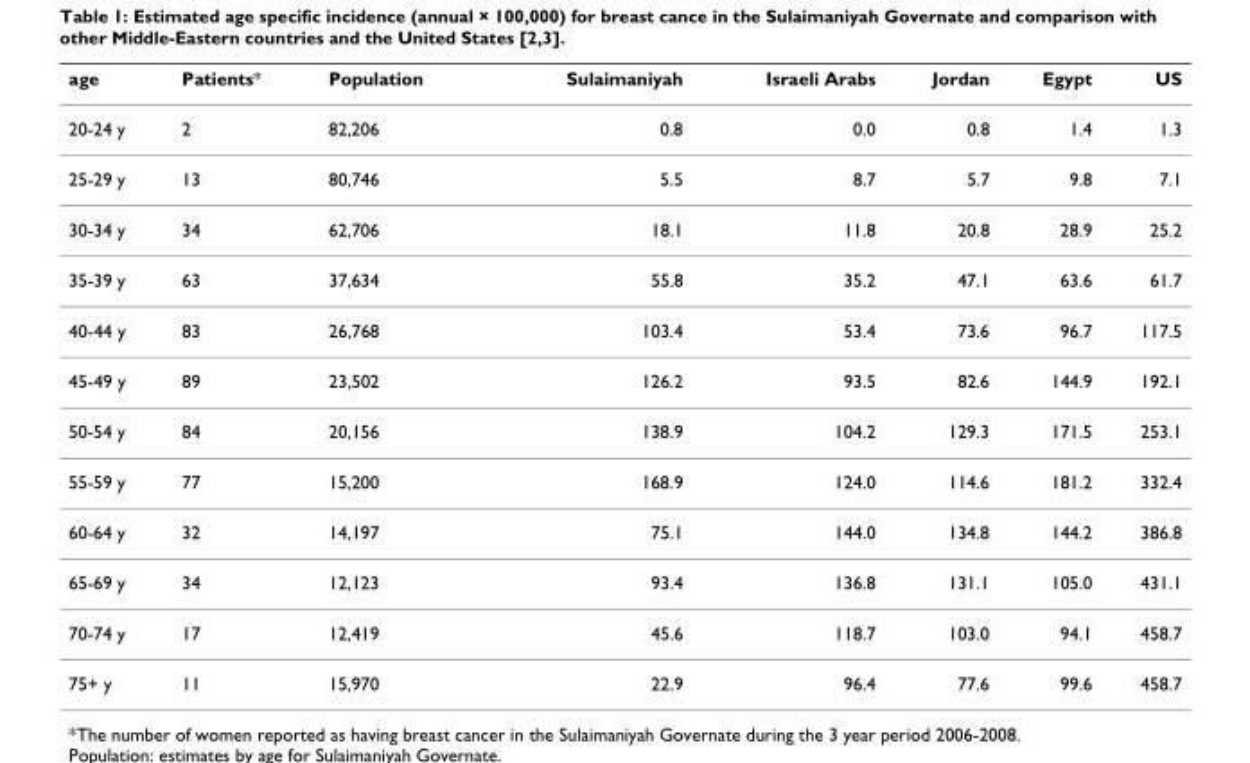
<table><thead><tr><td>age</td><td>Patients*</td><td>Population</td><td>Sulaimaniyah</td><td>Israeli Arabs</td><td>Jordan</td><td>Egypt</td><td>US</td></tr></thead><tbody><tr><td>20-24 y</td><td>2</td><td>82,206</td><td>0.8</td><td>0.0</td><td>0.8</td><td>1.4</td><td>1.3</td></tr><tr><td>25-29 y</td><td>13</td><td>80,746</td><td>5.5</td><td>8.7</td><td>5.7</td><td>9.8</td><td>7.1</td></tr><tr><td>30-34 y</td><td>34</td><td>62,706</td><td>18.1</td><td>11.8</td><td>20.8</td><td>28.9</td><td>25.2</td></tr><tr><td>35-39 y</td><td>63</td><td>37,634</td><td>55.8</td><td>35.2</td><td>47.1</td><td>63.6</td><td>61.7</td></tr><tr><td>40-44 y</td><td>83</td><td>26,768</td><td>103.4</td><td>53.4</td><td>73.6</td><td>96.7</td><td>117.5</td></tr><tr><td>45-49 y</td><td>89</td><td>23,502</td><td>126.2</td><td>93.5</td><td>82.6</td><td>144.9</td><td>192.1</td></tr><tr><td>50-54 y</td><td>84</td><td>20,156</td><td>138.9</td><td>104.2</td><td>129.3</td><td>171.5</td><td>253.1</td></tr><tr><td>55-59 y</td><td>77</td><td>15,200</td><td>168.9</td><td>124.0</td><td>114.6</td><td>181.2</td><td>332.4</td></tr><tr><td>60-64 y</td><td>32</td><td>14,197</td><td>75.1</td><td>144.0</td><td>134.8</td><td>144.2</td><td>386.8</td></tr><tr><td>65-69 y</td><td>34</td><td>12,123</td><td>93.4</td><td>136.8</td><td>131.1</td><td>105.0</td><td>431.1</td></tr><tr><td>70-74 y</td><td>17</td><td>12,419</td><td>45.6</td><td>118.7</td><td>103.0</td><td>94.1</td><td>458.7</td></tr><tr><td>75+ y</td><td>11</td><td>15,970</td><td>22.9</td><td>96.4</td><td>77.6</td><td>99.6</td><td>458.7</td></tr></tbody></table>